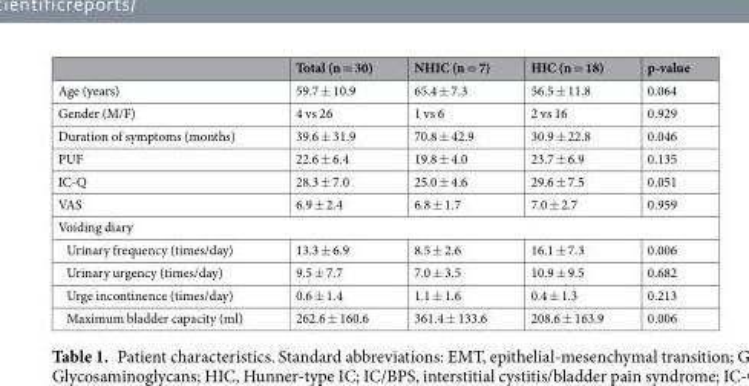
<table><thead><tr><td></td><td>Total (n = 30)</td><td>NHIC (n = 7)</td><td>HIC (n = 18)</td><td>p-value</td></tr></thead><tbody><tr><td>Age (years)</td><td>59.7 ± 10.9</td><td>65.4 ± 7.3</td><td>56.5 ± 11.8</td><td>0.064</td></tr><tr><td>Gender (M/F)</td><td>4 vs 26</td><td>1 vs 6</td><td>2 vs 16</td><td>0.929</td></tr><tr><td>Duration of symptoms (months)</td><td>39.6 ± 31.9</td><td>70.8 ± 42.9</td><td>30.9 ± 22.8</td><td>0.046</td></tr><tr><td>PUF</td><td>22.6 ± 6.4</td><td>19.8 ± 4.0</td><td>23.7 ± 6.9</td><td>0.135</td></tr><tr><td>IC-Q</td><td>28.3 ± 7.0</td><td>25.0 ± 4.6</td><td>29.6 ± 7.5</td><td>0.051</td></tr><tr><td>VAS</td><td>6.9 ± 2.4</td><td>6.8 ± 1.7</td><td>7.0 ± 2.7</td><td>0.959</td></tr><tr><td colspan="5">Voiding diary</td></tr><tr><td>Urinary frequency (times/day)</td><td>13.3 ± 6.9</td><td>8.5 ± 2.6</td><td>16.1 ± 7.3</td><td>0.006</td></tr><tr><td>Urinary urgency (times/day)</td><td>9.5 ± 7.7</td><td>7.0 ± 3.5</td><td>10.9 ± 9.5</td><td>0.682</td></tr><tr><td>Urge incontinence (times/day)</td><td>0.6 ± 1.4</td><td>1.1 ± 1.6</td><td>0.4 ± 1.3</td><td>0.213</td></tr><tr><td>Maximum bladder capacity (ml)</td><td>262.6 ± 160.6</td><td>361.4 ± 133.6</td><td>208.6 ± 163.9</td><td>0.006</td></tr></tbody></table>